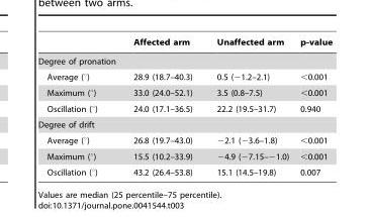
<table><thead><tr><td></td><td>Affected arm</td><td>Unaffected arm</td><td>p-value</td></tr></thead><tbody><tr><td colspan="4">Degree of pronation</td></tr><tr><td>Average (°)</td><td>28.9 (18.7–40.3)</td><td>0.5 (−1.2–2.1)</td><td>&lt;0.001</td></tr><tr><td>Maximum (°)</td><td>33.0 (24.0–52.1)</td><td>3.5 (0.8–7.5)</td><td>&lt;0.001</td></tr><tr><td>Oscillation (°)</td><td>24.0 (17.1–36.5)</td><td>22.2 (19.5–31.7)</td><td>0.940</td></tr><tr><td colspan="4">Degree of drift</td></tr><tr><td>Average (°)</td><td>26.8 (19.7–43.0)</td><td>−2.1 (−3.6–1.8)</td><td>&lt;0.001</td></tr><tr><td>Maximum (°)</td><td>15.5 (10.2–33.9)</td><td>−4.9 (−7.15–−1.0)</td><td>&lt;0.001</td></tr><tr><td>Oscillation (°)</td><td>43.2 (26.4–53.8)</td><td>15.1 (14.5–19.8)</td><td>0.007</td></tr></tbody></table>